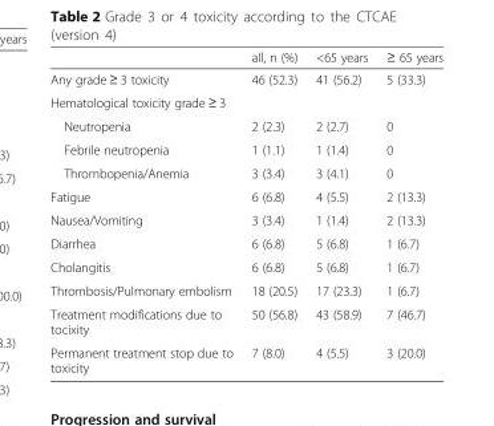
<table><thead><tr><td></td><td>all, n (%)</td><td>&lt;65 years</td><td>≥ 65 years</td></tr></thead><tbody><tr><td>Any grade ≥ 3 toxicity</td><td>46 (52.3)</td><td>41 (56.2)</td><td>5 (33.3)</td></tr><tr><td colspan="4">Hematological toxicity grade ≥ 3</td></tr><tr><td>Neutropenia</td><td>2 (2.3)</td><td>2 (2.7)</td><td>0</td></tr><tr><td>Febrile neutropenia</td><td>1 (1.1)</td><td>1 (1.4)</td><td>0</td></tr><tr><td>Thrombopenia/Anemia</td><td>3 (3.4)</td><td>3 (4.1)</td><td>0</td></tr><tr><td>Fatigue</td><td>6 (6.8)</td><td>4 (5.5)</td><td>2 (13.3)</td></tr><tr><td>Nausea/Vomiting</td><td>3 (3.4)</td><td>1 (1.4)</td><td>2 (13.3)</td></tr><tr><td>Diarrhea</td><td>6 (6.8)</td><td>5 (6.8)</td><td>1 (6.7)</td></tr><tr><td>Cholangitis</td><td>6 (6.8)</td><td>5 (6.8)</td><td>1 (6.7)</td></tr><tr><td>Thrombosis/Pulmonary embolism</td><td>18 (20.5)</td><td>17 (23.3)</td><td>1 (6.7)</td></tr><tr><td>Treatment modifications due to tocixity</td><td>50 (56.8)</td><td>43 (58.9)</td><td>7 (46.7)</td></tr><tr><td>Permanent treatment stop due to toxicity</td><td>7 (8.0)</td><td>4 (5.5)</td><td>3 (20.0)</td></tr></tbody></table>